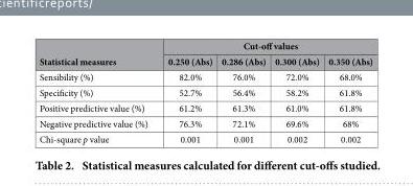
<table><thead><tr><td rowspan="2">Statistical measures</td><td colspan="4">Cut-off values</td></tr><tr><td>0.250 (Abs)</td><td>0.286 (Abs)</td><td>0.300 (Abs)</td><td>0.350 (Abs)</td></tr></thead><tbody><tr><td>Sensibility (%)</td><td>82.0%</td><td>76.0%</td><td>72.0%</td><td>68.0%</td></tr><tr><td>Specificity (%)</td><td>52.7%</td><td>56.4%</td><td>58.2%</td><td>61.8%</td></tr><tr><td>Positive predictive value (%)</td><td>61.2%</td><td>61.3%</td><td>61.0%</td><td>61.8%</td></tr><tr><td>Negative predictive value (%)</td><td>76.3%</td><td>72.1%</td><td>69.6%</td><td>68%</td></tr><tr><td>Chi-square p value</td><td>0.001</td><td>0.001</td><td>0.002</td><td>0.002</td></tr></tbody></table>